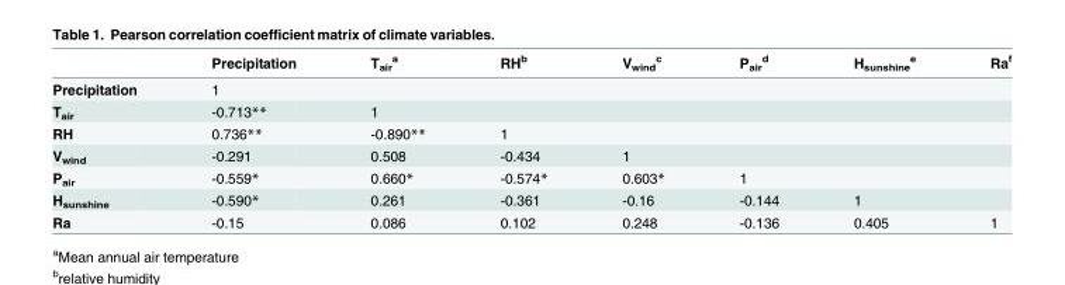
<table><thead><tr><td></td><td>Precipitation</td><td>T<sub>air</sub> <sup>a</sup></td><td>RH<sup>b</sup></td><td>V<sub>wind</sub> <sup>c</sup></td><td>P<sub>air</sub> <sup>d</sup></td><td>H<sub>sunshine</sub> <sup>e</sup></td><td>Ra<sup>f</sup></td></tr></thead><tbody><tr><td>Precipitation</td><td>1</td><td></td><td></td><td></td><td></td><td></td><td></td></tr><tr><td>T<sub>air</sub></td><td>-0.713**</td><td>1</td><td></td><td></td><td></td><td></td><td></td></tr><tr><td>RH</td><td>0.736**</td><td>-0.890**</td><td>1</td><td></td><td></td><td></td><td></td></tr><tr><td>V<sub>wind</sub></td><td>-0.291</td><td>0.508</td><td>-0.434</td><td>1</td><td></td><td></td><td></td></tr><tr><td>P<sub>air</sub></td><td>-0.559*</td><td>0.660*</td><td>-0.574*</td><td>0.603*</td><td>1</td><td></td><td></td></tr><tr><td>H<sub>sunshine</sub></td><td>-0.590*</td><td>0.261</td><td>-0.361</td><td>-0.16</td><td>-0.144</td><td>1</td><td></td></tr><tr><td>Ra</td><td>-0.15</td><td>0.086</td><td>0.102</td><td>0.248</td><td>-0.136</td><td>0.405</td><td>1</td></tr></tbody></table>